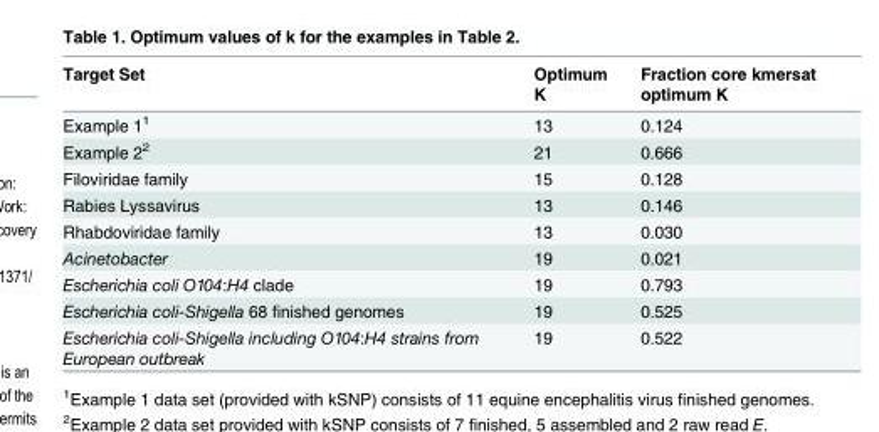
<table><thead><tr><td>Target Set</td><td>Optimum K</td><td>Fraction core kmersat optimum K</td></tr></thead><tbody><tr><td>Example 1<sup>1</sup></td><td>13</td><td>0.124</td></tr><tr><td>Example 2<sup>2</sup></td><td>21</td><td>0.666</td></tr><tr><td>Filoviridae family</td><td>15</td><td>0.128</td></tr><tr><td>Rabies Lyssavirus</td><td>13</td><td>0.146</td></tr><tr><td>Rhabdoviridae family</td><td>13</td><td>0.030</td></tr><tr><td>Acinetobacter</td><td>19</td><td>0.021</td></tr><tr><td>Escherichia coli O104:H4 clade</td><td>19</td><td>0.793</td></tr><tr><td>Escherichia coli-Shigella 68 finished genomes</td><td>19</td><td>0.525</td></tr><tr><td>Escherichia coli-Shigella including O104:H4 strains from European outbreak</td><td>19</td><td>0.522</td></tr></tbody></table>